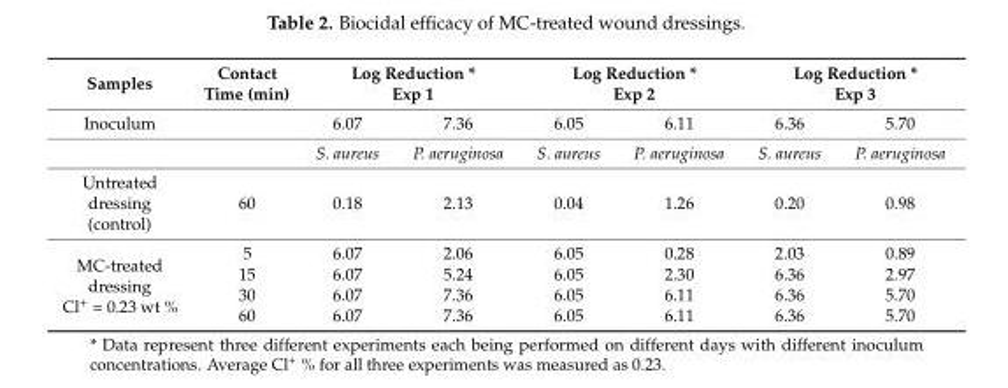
<table><thead><tr><td rowspan="2">Samples Inoculum</td><td rowspan="2">Contact Time (min)</td><td colspan="2">Log Reduction * Exp 1</td><td colspan="2">Log Reduction * Exp 2</td><td colspan="2">Log Reduction * Exp 3</td></tr><tr><td>6.07</td><td>7.36</td><td>6.05</td><td>6.11</td><td>6.36</td><td>5.70</td></tr></thead><tbody><tr><td></td><td></td><td>S. aureus</td><td>P. aeruginosa</td><td>S. aureus</td><td>P. aeruginosa</td><td>S. aureus</td><td>P. aeruginosa</td></tr><tr><td>Untreated dressing (control)</td><td>60</td><td>0.18</td><td>2.13</td><td>0.04</td><td>1.26</td><td>0.20</td><td>0.98</td></tr><tr><td rowspan="4">MC-treated dressing Cl+ = 0.23 wt %</td><td>5</td><td>6.07</td><td>2.06</td><td>6.05</td><td>0.28</td><td>2.03</td><td>0.89</td></tr><tr><td>15</td><td>6.07</td><td>5.24</td><td>6.05</td><td>2.30</td><td>6.36</td><td>2.97</td></tr><tr><td>30</td><td>6.07</td><td>7.36</td><td>6.05</td><td>6.11</td><td>6.36</td><td>5.70</td></tr><tr><td>60</td><td>6.07</td><td>7.36</td><td>6.05</td><td>6.11</td><td>6.36</td><td>5.70</td></tr></tbody></table>